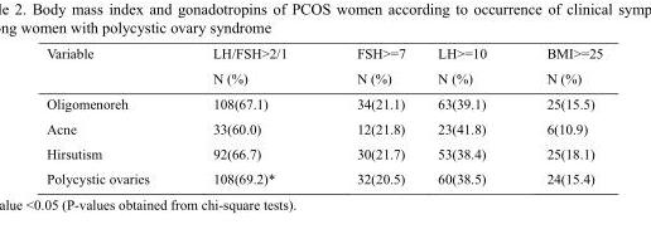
<table><thead><tr><td>Variable</td><td>LH/FSH&gt;2/1 N (%)</td><td>FSH&gt;=7 N (%)</td><td>LH&gt;=10 N (%)</td><td>BMI&gt;=25 N (%)</td></tr></thead><tbody><tr><td>Oligomenoreh</td><td>108(67.1)</td><td>34(21.1)</td><td>63(39.1)</td><td>25(15.5)</td></tr><tr><td>Acne</td><td>33(60.0)</td><td>12(21.8)</td><td>23(41.8)</td><td>6(10.9)</td></tr><tr><td>Hirsutism</td><td>92(66.7)</td><td>30(21.7)</td><td>53(38.4)</td><td>25(18.1)</td></tr><tr><td>Polycystic ovaries</td><td>108(69.2)*</td><td>32(20.5)</td><td>60(38.5)</td><td>24(15.4)</td></tr></tbody></table>